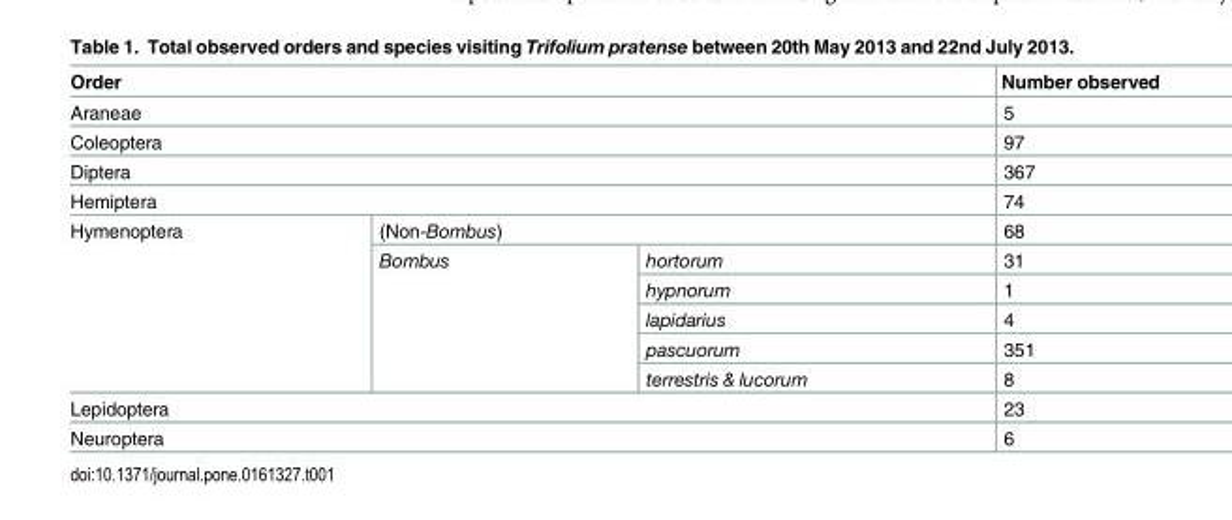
<table><thead><tr><td colspan="3">Order</td><td>Number observed</td></tr></thead><tbody><tr><td colspan="3">Araneae</td><td>5</td></tr><tr><td colspan="3">Coleoptera</td><td>97</td></tr><tr><td colspan="3">Diptera</td><td>367</td></tr><tr><td colspan="3">Hemiptera</td><td>74</td></tr><tr><td rowspan="6">Hymenoptera</td><td colspan="2">(Non-Bombus)</td><td>68</td></tr><tr><td rowspan="5">Bombus</td><td>hortorum</td><td>31</td></tr><tr><td>hypnorum</td><td>1</td></tr><tr><td>lapidarius</td><td>4</td></tr><tr><td>pascuorum</td><td>351</td></tr><tr><td>terrestris &amp; lucorum</td><td>8</td></tr><tr><td colspan="3">Lepidoptera</td><td>23</td></tr><tr><td colspan="3">Neuroptera</td><td>6</td></tr></tbody></table>